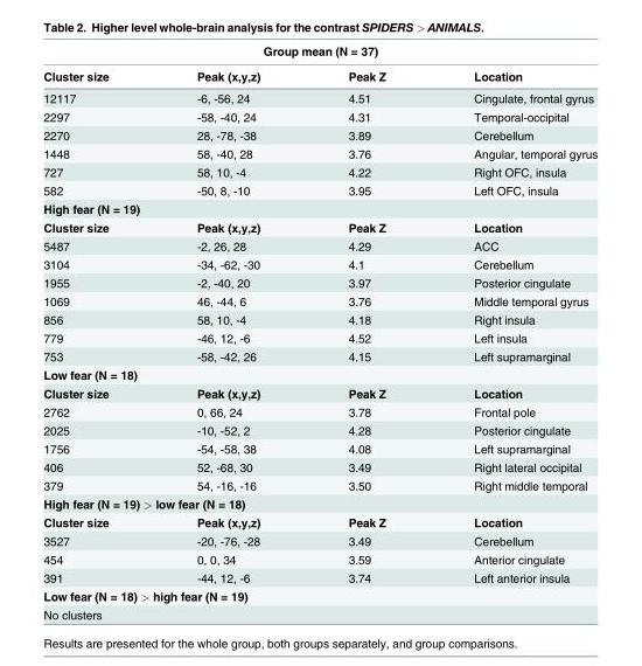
<table><thead><tr><td colspan="4">Group mean (N = 37)</td></tr><tr><td>Cluster size</td><td>Peak (x,y,z)</td><td>Peak Z</td><td>Location</td></tr></thead><tbody><tr><td>12117</td><td>-6, -56, 24</td><td>4.51</td><td>Cingulate, frontal gyrus</td></tr><tr><td>2297</td><td>-58, -40, 24</td><td>4.31</td><td>Temporal-occipital</td></tr><tr><td>2270</td><td>28, -78, -38</td><td>3.89</td><td>Cerebellum</td></tr><tr><td>1448</td><td>58, -40, 28</td><td>3.76</td><td>Angular, temporal gyrus</td></tr><tr><td>727</td><td>58, 10, -4</td><td>4.22</td><td>Right OFC, insula</td></tr><tr><td>582</td><td>-50, 8, -10</td><td>3.95</td><td>Left OFC, insula</td></tr><tr><td colspan="4">High fear (N = 19)</td></tr><tr><td>Cluster size</td><td>Peak (x,y,z)</td><td>Peak Z</td><td>Location</td></tr><tr><td>5487</td><td>-2, 26, 28</td><td>4.29</td><td>ACC</td></tr><tr><td>3104</td><td>-34, -62, -30</td><td>4.1</td><td>Cerebellum</td></tr><tr><td>1955</td><td>-2, -40, 20</td><td>3.97</td><td>Posterior cingulate</td></tr><tr><td>1069</td><td>46, -44, 6</td><td>3.76</td><td>Middle temporal gyrus</td></tr><tr><td>856</td><td>58, 10, -4</td><td>4.18</td><td>Right insula</td></tr><tr><td>779</td><td>-46, 12, -6</td><td>4.52</td><td>Left insula</td></tr><tr><td>753</td><td>-58, -42, 26</td><td>4.15</td><td>Left supramarginal</td></tr><tr><td colspan="4">Low fear (N = 18)</td></tr><tr><td>Cluster size</td><td>Peak (x,y,z)</td><td>Peak Z</td><td>Location</td></tr><tr><td>2762</td><td>0, 66, 24</td><td>3.78</td><td>Frontal pole</td></tr><tr><td>2025</td><td>-10, -52, 2</td><td>4.28</td><td>Posterior cingulate</td></tr><tr><td>1756</td><td>-54, -58, 38</td><td>4.08</td><td>Left supramarginal</td></tr><tr><td>406</td><td>52, -68, 30</td><td>3.49</td><td>Right lateral occipital</td></tr><tr><td>379</td><td>54, -16, -16</td><td>3.50</td><td>Right middle temporal</td></tr><tr><td colspan="4">High fear (N = 19) &gt; low fear (N = 18)</td></tr><tr><td>Cluster size</td><td>Peak (x,y,z)</td><td>Peak Z</td><td>Location</td></tr><tr><td>3527</td><td>-20, -76, -28</td><td>3.49</td><td>Cerebellum</td></tr><tr><td>454</td><td>0, 0, 34</td><td>3.59</td><td>Anterior cingulate</td></tr><tr><td>391</td><td>-44, 12, -6</td><td>3.74</td><td>Left anterior insula</td></tr><tr><td colspan="4">Low fear (N = 18) &gt; high fear (N = 19)</td></tr><tr><td colspan="4">No clusters</td></tr></tbody></table>